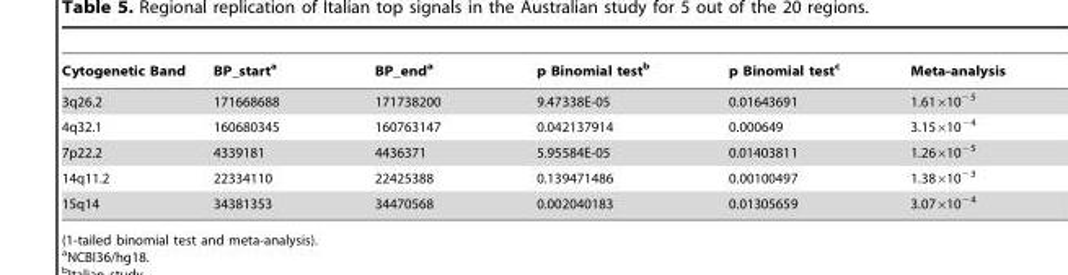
<table><thead><tr><td>Cytogenetic Band</td><td>BP_start<sup>a</sup></td><td>BP_end<sup>a</sup></td><td>p Binomial test<sup>b</sup></td><td>p Binomial test<sup>c</sup></td><td>Meta-analysis</td></tr></thead><tbody><tr><td>3q26.2</td><td>171668688</td><td>171738200</td><td>9.47338E-05</td><td>0.01643691</td><td>1.61×10<sup>−5</sup></td></tr><tr><td>4q32.1</td><td>160680345</td><td>160763147</td><td>0.042137914</td><td>0.000649</td><td>3.15×10<sup>−4</sup></td></tr><tr><td>7p22.2</td><td>4339181</td><td>4436371</td><td>5.95584E-05</td><td>0.01403811</td><td>1.26×10<sup>−5</sup></td></tr><tr><td>14q11.2</td><td>22334110</td><td>22425388</td><td>0.139471486</td><td>0.00100497</td><td>1.38×10<sup>−3</sup></td></tr><tr><td>15q14</td><td>34381353</td><td>34470568</td><td>0.002040183</td><td>0.01305659</td><td>3.07×10<sup>−4</sup></td></tr></tbody></table>